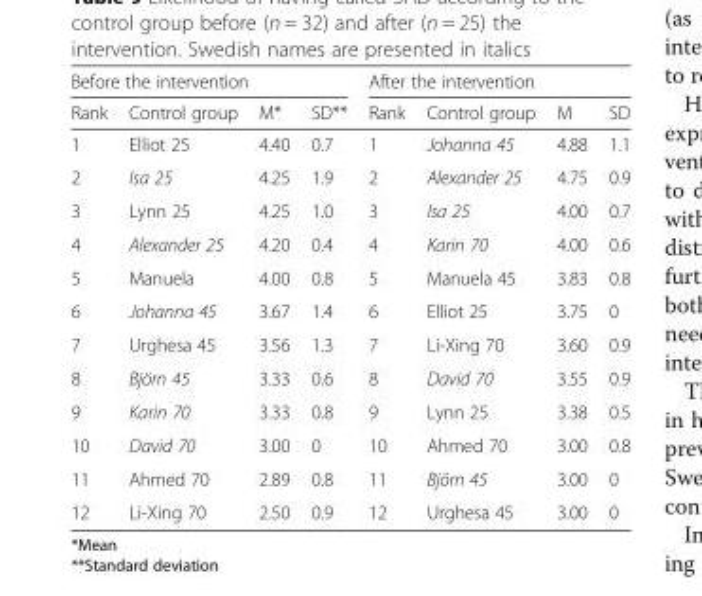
<table><thead><tr><td colspan="4">Before the intervention</td><td colspan="4">After the intervention</td></tr><tr><td>Rank</td><td>Control group</td><td>M*</td><td>SD**</td><td>Rank</td><td>Control group</td><td>M</td><td>SD</td></tr></thead><tbody><tr><td>1</td><td>Elliot 25</td><td>4.40</td><td>0.7</td><td>1</td><td>Johanna 45</td><td>4.88</td><td>1.1</td></tr><tr><td>2</td><td>Isa 25</td><td>4.25</td><td>1.9</td><td>2</td><td>Alexander 25</td><td>4.75</td><td>0.9</td></tr><tr><td>3</td><td>Lynn 25</td><td>4.25</td><td>1.0</td><td>3</td><td>Isa 25</td><td>4.00</td><td>0.7</td></tr><tr><td>4</td><td>Alexander 25</td><td>4.20</td><td>0.4</td><td>4</td><td>Karin 70</td><td>4.00</td><td>0.6</td></tr><tr><td>5</td><td>Manuela</td><td>4.00</td><td>0.8</td><td>5</td><td>Manuela 45</td><td>3.83</td><td>0.8</td></tr><tr><td>6</td><td>Johanna 45</td><td>3.67</td><td>1.4</td><td>6</td><td>Elliot 25</td><td>3.75</td><td>0</td></tr><tr><td>7</td><td>Urghesa 45</td><td>3.56</td><td>1.3</td><td>7</td><td>Li-Xing 70</td><td>3.60</td><td>0.9</td></tr><tr><td>8</td><td>Björn 45</td><td>3.33</td><td>0.6</td><td>8</td><td>David 70</td><td>3.55</td><td>0.9</td></tr><tr><td>9</td><td>Karin 70</td><td>3.33</td><td>0.8</td><td>9</td><td>Lynn 25</td><td>3.38</td><td>0.5</td></tr><tr><td>10</td><td>David 70</td><td>3.00</td><td>0</td><td>10</td><td>Ahmed 70</td><td>3.00</td><td>0.8</td></tr><tr><td>11</td><td>Ahmed 70</td><td>2.89</td><td>0.8</td><td>11</td><td>Björn 45</td><td>3.00</td><td>0</td></tr><tr><td>12</td><td>Li-Xing 70</td><td>2.50</td><td>0.9</td><td>12</td><td>Urghesa 45</td><td>3.00</td><td>0</td></tr></tbody></table>